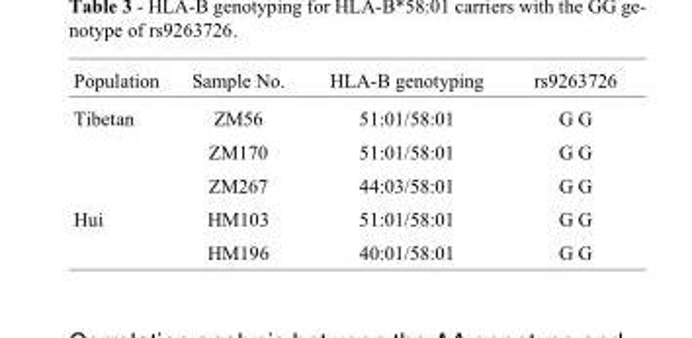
<table><thead><tr><td>Population</td><td>Sample No.</td><td>HLA-B genotyping</td><td>rs9263726</td></tr></thead><tbody><tr><td rowspan="3">Tibetan</td><td>ZM56</td><td>51:01/58:01</td><td>G G</td></tr><tr><td>ZM170</td><td>51:01/58:01</td><td>G G</td></tr><tr><td>ZM267</td><td>44:03/58:01</td><td>G G</td></tr><tr><td rowspan="2">Hui</td><td>HM103</td><td>51:01/58:01</td><td>G G</td></tr><tr><td>HM196</td><td>40:01/58:01</td><td>G G</td></tr></tbody></table>